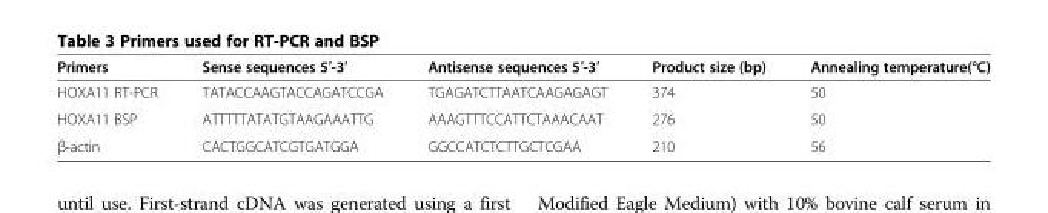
<table><thead><tr><td>Primers</td><td>Sense sequences 5′-3′</td><td>Antisense sequences 5′-3′</td><td>Product size (bp)</td><td>Annealing temperature(°C)</td></tr></thead><tbody><tr><td>HOXA11 RT-PCR</td><td>TATACCAAGTACCAGATCCGA</td><td>TGAGATCTTAATCAAGAGAGT</td><td>374</td><td>50</td></tr><tr><td>HOXA11 BSP</td><td>ATTTTTATATGTAAGAAATTG</td><td>AAAGTTTCCATTCTAAACAAT</td><td>276</td><td>50</td></tr><tr><td>β-actin</td><td>CACTGGCATCGTGATGGA</td><td>GGCCATCTCTTGCTCGAA</td><td>210</td><td>56</td></tr></tbody></table>